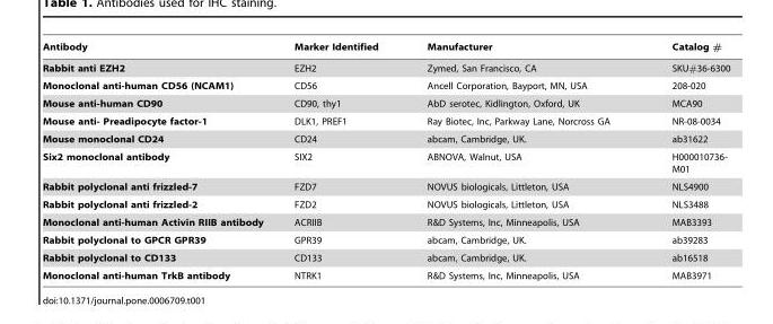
<table><thead><tr><td>Antibody</td><td>Marker Identified</td><td>Manufacturer</td><td>Catalog #</td></tr></thead><tbody><tr><td>Rabbit anti EZH2</td><td>EZH2</td><td>Zymed, San Francisco, CA</td><td>SKU#36-6300</td></tr><tr><td>Monoclonal anti-human CD56 (NCAM1)</td><td>CD56</td><td>Ancell Corporation, Bayport, MN, USA</td><td>208-020</td></tr><tr><td>Mouse anti-human CD90</td><td>CD90, thy1</td><td>AbD serotec, Kidlington, Oxford, UK</td><td>MCA90</td></tr><tr><td>Mouse anti- Preadipocyte factor-1</td><td>DLK1, PREF1</td><td>Ray Biotec, Inc, Parkway Lane, Norcross GA</td><td>NR-08-0034</td></tr><tr><td>Mouse monoclonal CD24</td><td>CD24</td><td>abcam, Cambridge, UK.</td><td>ab31622</td></tr><tr><td>Six2 monoclonal antibody</td><td>SIX2</td><td>ABNOVA, Walnut, USA</td><td>H000010736- M01</td></tr><tr><td>Rabbit polyclonal anti frizzled-7</td><td>FZD7</td><td>NOVUS biologicals, Littleton, USA</td><td>NLS4900</td></tr><tr><td>Rabbit polyclonal anti frizzled-2</td><td>FZD2</td><td>NOVUS biologicals, Littleton, USA</td><td>NLS3488</td></tr><tr><td>Monoclonal anti-human Activin RIIB antibody</td><td>ACRIIB</td><td>R&amp;D Systems, Inc, Minneapolis, USA</td><td>MAB3393</td></tr><tr><td>Rabbit polyclonal to GPCR GPR39</td><td>GPR39</td><td>abcam, Cambridge, UK.</td><td>ab39283</td></tr><tr><td>Rabbit polyclonal to CD133</td><td>CD133</td><td>abcam, Cambridge, UK.</td><td>ab16518</td></tr><tr><td>Monoclonal anti-human TrkB antibody</td><td>NTRK1</td><td>R&amp;D Systems, Inc, Minneapolis, USA</td><td>MAB3971</td></tr></tbody></table>